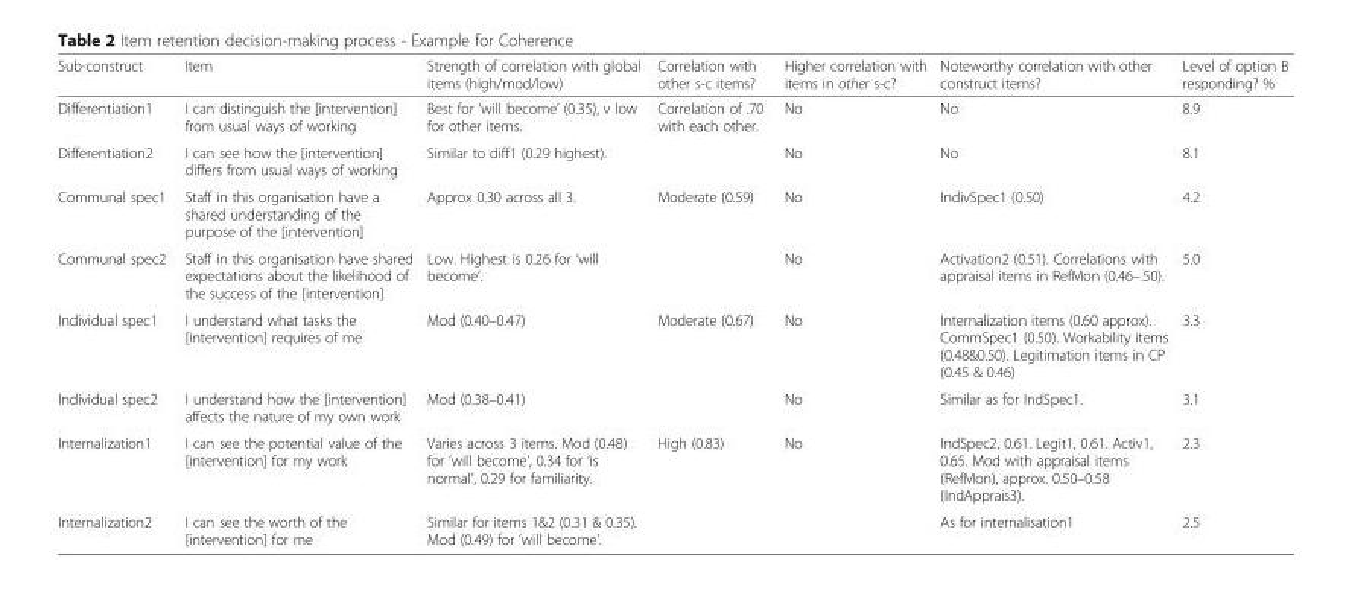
<table><thead><tr><td>Sub-construct</td><td>Item</td><td>Strength of correlation with global items (high/mod/low)</td><td>Correlation with other s-c items?</td><td>Higher correlation with items in other s-c?</td><td>Noteworthy correlation with other construct items?</td><td>Level of option B responding? %</td></tr></thead><tbody><tr><td>Differentiation1</td><td>I can distinguish the [intervention] from usual ways of working</td><td>Best for ‘will become’ (0.35), v low for other items.</td><td rowspan="2">Correlation of .70 with each other.</td><td>No</td><td>No</td><td>8.9</td></tr><tr><td>Differentiation2</td><td>I can see how the [intervention] differs from usual ways of working</td><td>Similar to diff1 (0.29 highest).</td><td>No</td><td>No</td><td>8.1</td></tr><tr><td>Communal spec1</td><td>Staff in this organisation have a shared understanding of the purpose of the [intervention]</td><td>Approx 0.30 across all 3.</td><td rowspan="2">Moderate (0.59)</td><td>No</td><td>IndivSpec1 (0.50)</td><td>4.2</td></tr><tr><td>Communal spec2</td><td>Staff in this organisation have shared expectations about the likelihood of the success of the [intervention]</td><td>Low. Highest is 0.26 for ‘will become’.</td><td>No</td><td>Activation2 (0.51). Correlations with appraisal items in RefMon (0.46–.50).</td><td>5.0</td></tr><tr><td>Individual spec1</td><td>I understand what tasks the [intervention] requires of me</td><td>Mod (0.40–0.47)</td><td rowspan="2">Moderate (0.67)</td><td>No</td><td>Internalization items (0.60 approx). CommSpec1 (0.50). Workability items (0.48&amp;0.50). Legitimation items in CP (0.45 &amp; 0.46)</td><td>3.3</td></tr><tr><td>Individual spec2</td><td>I understand how the [intervention] affects the nature of my own work</td><td>Mod (0.38–0.41)</td><td>No</td><td>Similar as for IndSpec1.</td><td>3.1</td></tr><tr><td>Internalization1</td><td>I can see the potential value of the [intervention] for my work</td><td>Varies across 3 items. Mod (0.48) for ‘will become’, 0.34 for ‘is normal’, 0.29 for familiarity.</td><td rowspan="2">High (0.83)</td><td>No</td><td>IndSpec2, 0.61. Legit1, 0.61. Activ1, 0.65. Mod with appraisal items (RefMon), approx. 0.50–0.58 (IndApprais3).</td><td>2.3</td></tr><tr><td>Internalization2</td><td>I can see the worth of the [intervention] for me</td><td>Similar for items 1&amp;2 (0.31 &amp; 0.35). Mod (0.49) for ‘will become’.</td><td></td><td>As for internalisation1</td><td>2.5</td></tr></tbody></table>